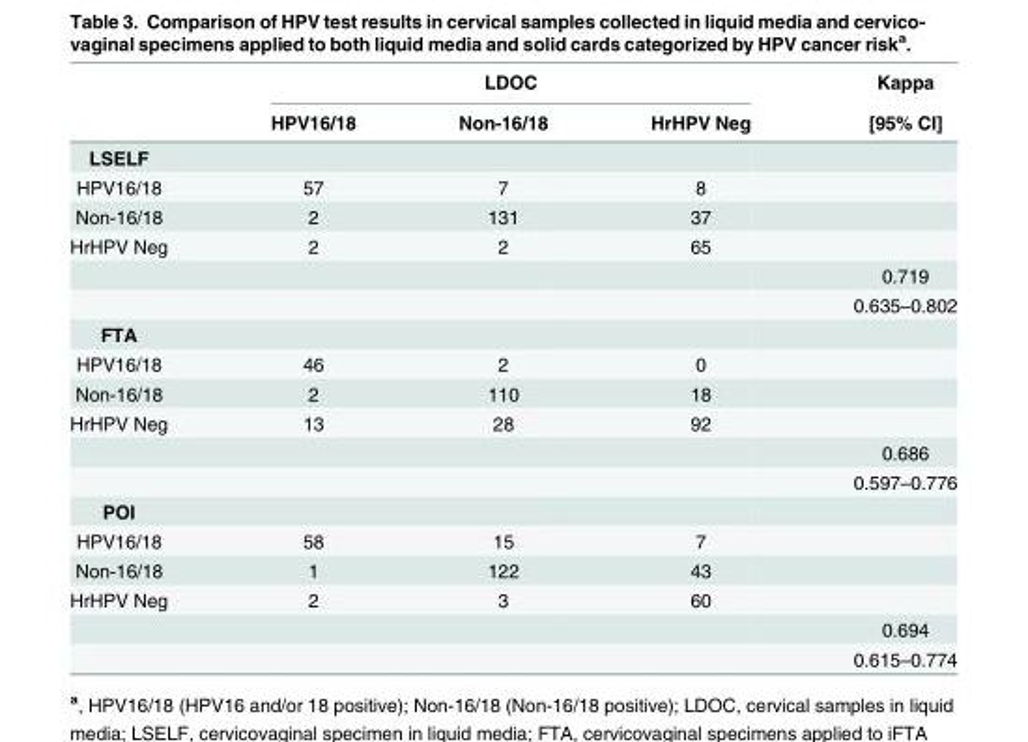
<table><thead><tr><td rowspan="2"></td><td colspan="3">LDOC</td><td rowspan="2">Kappa [95% CI]</td></tr><tr><td>HPV16/18</td><td>Non-16/18</td><td>HrHPV Neg</td></tr></thead><tbody><tr><td colspan="5">LSELF</td></tr><tr><td>HPV16/18</td><td>57</td><td>7</td><td>8</td><td></td></tr><tr><td>Non-16/18</td><td>2</td><td>131</td><td>37</td><td></td></tr><tr><td rowspan="3">HrHPV Neg</td><td>2</td><td>2</td><td>65</td><td></td></tr><tr><td></td><td></td><td></td><td>0.719</td></tr><tr><td></td><td></td><td></td><td>0.635–0.802</td></tr><tr><td colspan="5">FTA</td></tr><tr><td>HPV16/18</td><td>46</td><td>2</td><td>0</td><td></td></tr><tr><td>Non-16/18</td><td>2</td><td>110</td><td>18</td><td></td></tr><tr><td rowspan="3">HrHPV Neg</td><td>13</td><td>28</td><td>92</td><td></td></tr><tr><td></td><td></td><td></td><td>0.686</td></tr><tr><td></td><td></td><td></td><td>0.597–0.776</td></tr><tr><td colspan="5">POI</td></tr><tr><td>HPV16/18</td><td>58</td><td>15</td><td>7</td><td></td></tr><tr><td>Non-16/18</td><td>1</td><td>122</td><td>43</td><td></td></tr><tr><td rowspan="3">HrHPV Neg</td><td>2</td><td>3</td><td>60</td><td></td></tr><tr><td></td><td></td><td></td><td>0.694</td></tr><tr><td></td><td></td><td></td><td>0.615–0.774</td></tr></tbody></table>